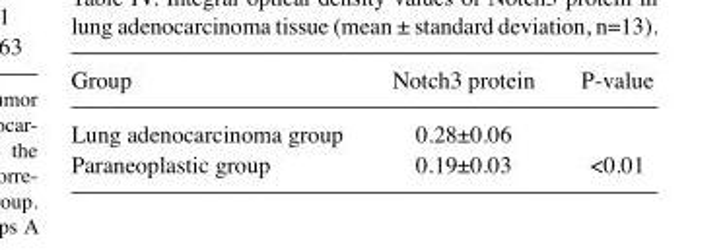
<table><thead><tr><td>Group</td><td>Notch3 protein</td><td>P-value</td></tr></thead><tbody><tr><td>Lung adenocarcinoma group</td><td>0.28±0.06</td><td></td></tr><tr><td>Paraneoplastic group</td><td>0.19±0.03</td><td>&lt;0.01</td></tr></tbody></table>